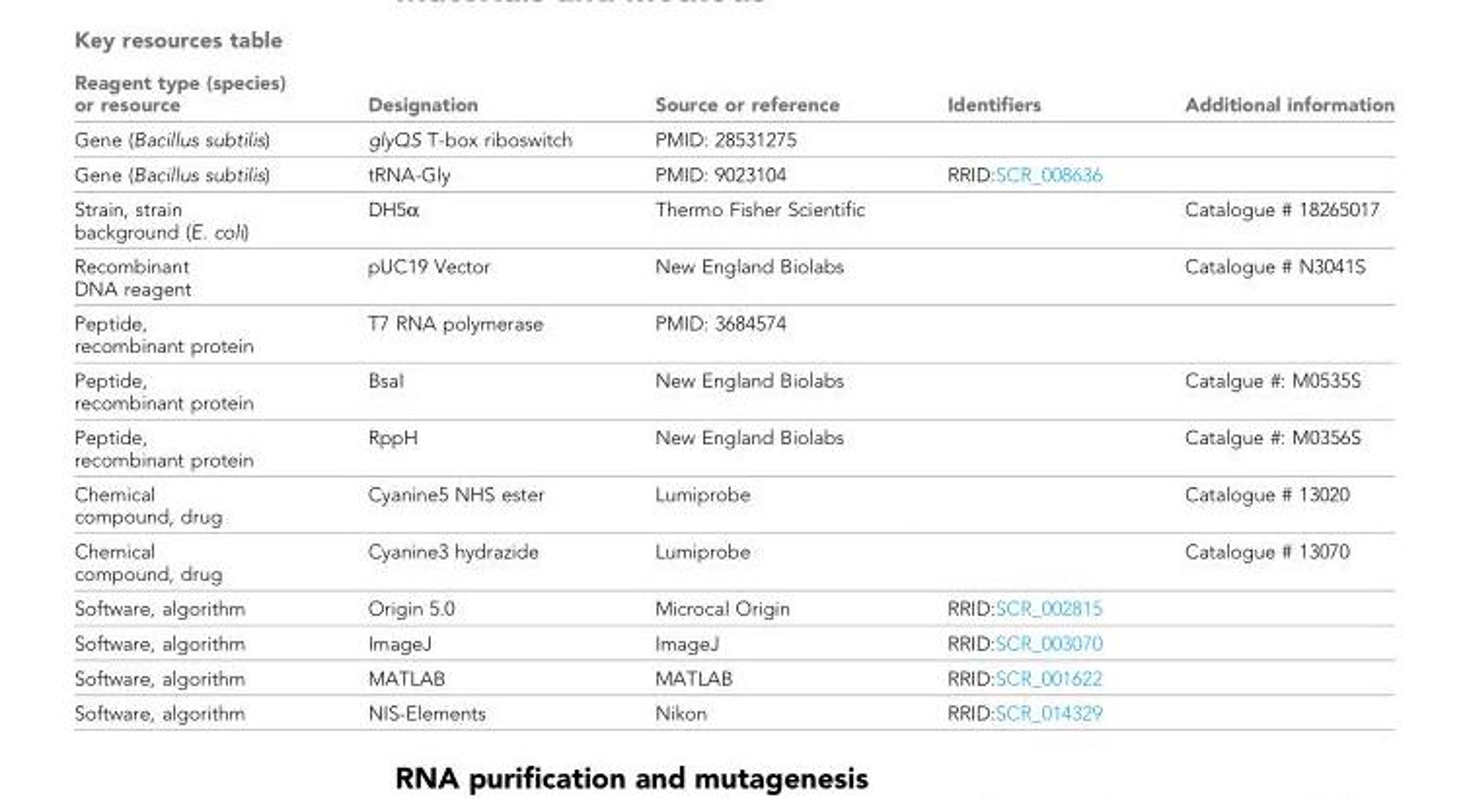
<table><thead><tr><td>Reagent type (species) or resource</td><td>Designation</td><td>Source or reference</td><td>Identifiers</td><td>Additional information</td></tr></thead><tbody><tr><td>Gene (Bacillus subtilis)</td><td>glyQS T-box riboswitch</td><td>PMID: 28531275</td><td></td><td></td></tr><tr><td>Gene (Bacillus subtilis)</td><td>tRNA-Gly</td><td>PMID: 9023104</td><td>RRID:SCR_008636</td><td></td></tr><tr><td>Strain, strain background (E. coli)</td><td>DH5α</td><td>Thermo Fisher Scientific</td><td></td><td>Catalogue # 18265017</td></tr><tr><td>Recombinant DNA reagent</td><td>pUC19 Vector</td><td>New England Biolabs</td><td></td><td>Catalogue # N3041S</td></tr><tr><td>Peptide, recombinant protein</td><td>T7 RNA polymerase</td><td>PMID: 3684574</td><td></td><td></td></tr><tr><td>Peptide, recombinant protein</td><td>BsaI</td><td>New England Biolabs</td><td></td><td>Catalgue #: M0535S</td></tr><tr><td>Peptide, recombinant protein</td><td>RppH</td><td>New England Biolabs</td><td></td><td>Catalgue #: M0356S</td></tr><tr><td>Chemical compound, drug</td><td>Cyanine5 NHS ester</td><td>Lumiprobe</td><td></td><td>Catalogue # 13020</td></tr><tr><td>Chemical compound, drug</td><td>Cyanine3 hydrazide</td><td>Lumiprobe</td><td></td><td>Catalogue # 13070</td></tr><tr><td>Software, algorithm</td><td>Origin 5.0</td><td>Microcal Origin</td><td>RRID:SCR_002815</td><td></td></tr><tr><td>Software, algorithm</td><td>ImageJ</td><td>ImageJ</td><td>RRID:SCR_003070</td><td></td></tr><tr><td>Software, algorithm</td><td>MATLAB</td><td>MATLAB</td><td>RRID:SCR_001622</td><td></td></tr><tr><td>Software, algorithm</td><td>NIS-Elements</td><td>Nikon</td><td>RRID:SCR_014329</td><td></td></tr></tbody></table>